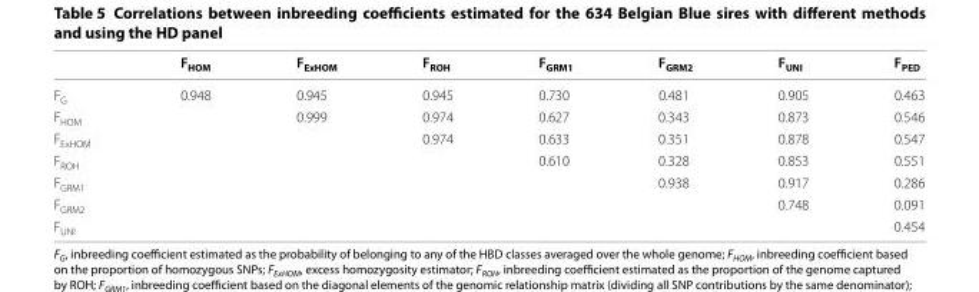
<table><thead><tr><td></td><td>F<sub>HOM</sub></td><td>F<sub>ExHOM</sub></td><td>F<sub>ROH</sub></td><td>F<sub>GRM1</sub></td><td>F<sub>GRM2</sub></td><td>F<sub>UNI</sub></td><td>F<sub>PED</sub></td></tr></thead><tbody><tr><td>F<sub>G</sub></td><td>0.948</td><td>0.945</td><td>0.945</td><td>0.730</td><td>0.481</td><td>0.905</td><td>0.463</td></tr><tr><td>F<sub>HOM</sub></td><td></td><td>0.999</td><td>0.974</td><td>0.627</td><td>0.343</td><td>0.873</td><td>0.546</td></tr><tr><td>F<sub>ExHOM</sub></td><td></td><td></td><td>0.974</td><td>0.633</td><td>0.351</td><td>0.878</td><td>0.547</td></tr><tr><td>F<sub>ROH</sub></td><td></td><td></td><td></td><td>0.610</td><td>0.328</td><td>0.853</td><td>0.551</td></tr><tr><td>F<sub>GRM1</sub></td><td></td><td></td><td></td><td></td><td>0.938</td><td>0.917</td><td>0.286</td></tr><tr><td>F<sub>GRM2</sub></td><td></td><td></td><td></td><td></td><td></td><td>0.748</td><td>0.091</td></tr><tr><td>F<sub>UNI</sub></td><td></td><td></td><td></td><td></td><td></td><td></td><td>0.454</td></tr></tbody></table>